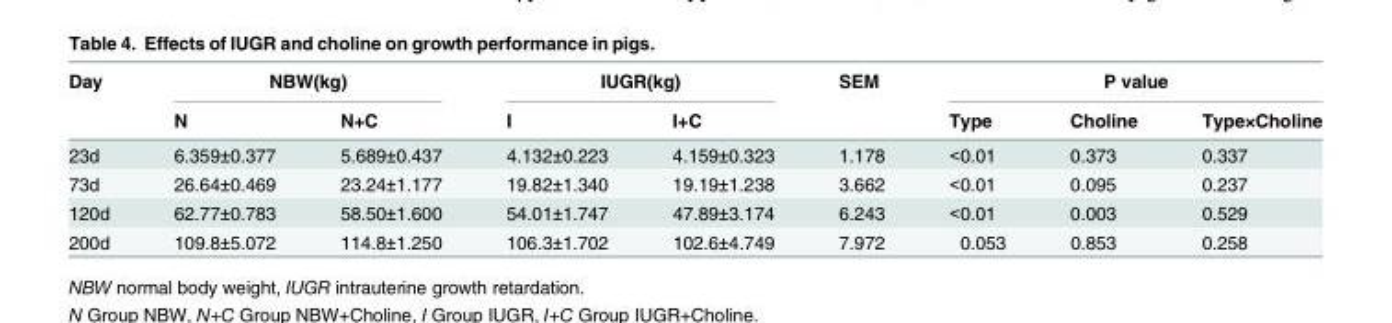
<table><thead><tr><td rowspan="2">Day</td><td colspan="2">NBW(kg)</td><td colspan="2">IUGR(kg)</td><td rowspan="2">SEM</td><td colspan="3">P value</td></tr><tr><td>N</td><td>N+C</td><td>I</td><td>I+C</td><td>Type</td><td>Choline</td><td>Type×Choline</td></tr></thead><tbody><tr><td>23d</td><td>6.359±0.377</td><td>5.689±0.437</td><td>4.132±0.223</td><td>4.159±0.323</td><td>1.178</td><td>&lt;0.01</td><td>0.373</td><td>0.337</td></tr><tr><td>73d</td><td>26.64±0.469</td><td>23.24±1.177</td><td>19.82±1.340</td><td>19.19±1.238</td><td>3.662</td><td>&lt;0.01</td><td>0.095</td><td>0.237</td></tr><tr><td>120d</td><td>62.77±0.783</td><td>58.50±1.600</td><td>54.01±1.747</td><td>47.89±3.174</td><td>6.243</td><td>&lt;0.01</td><td>0.003</td><td>0.529</td></tr><tr><td>200d</td><td>109.8±5.072</td><td>114.8±1.250</td><td>106.3±1.702</td><td>102.6±4.749</td><td>7.972</td><td>0.053</td><td>0.853</td><td>0.258</td></tr></tbody></table>